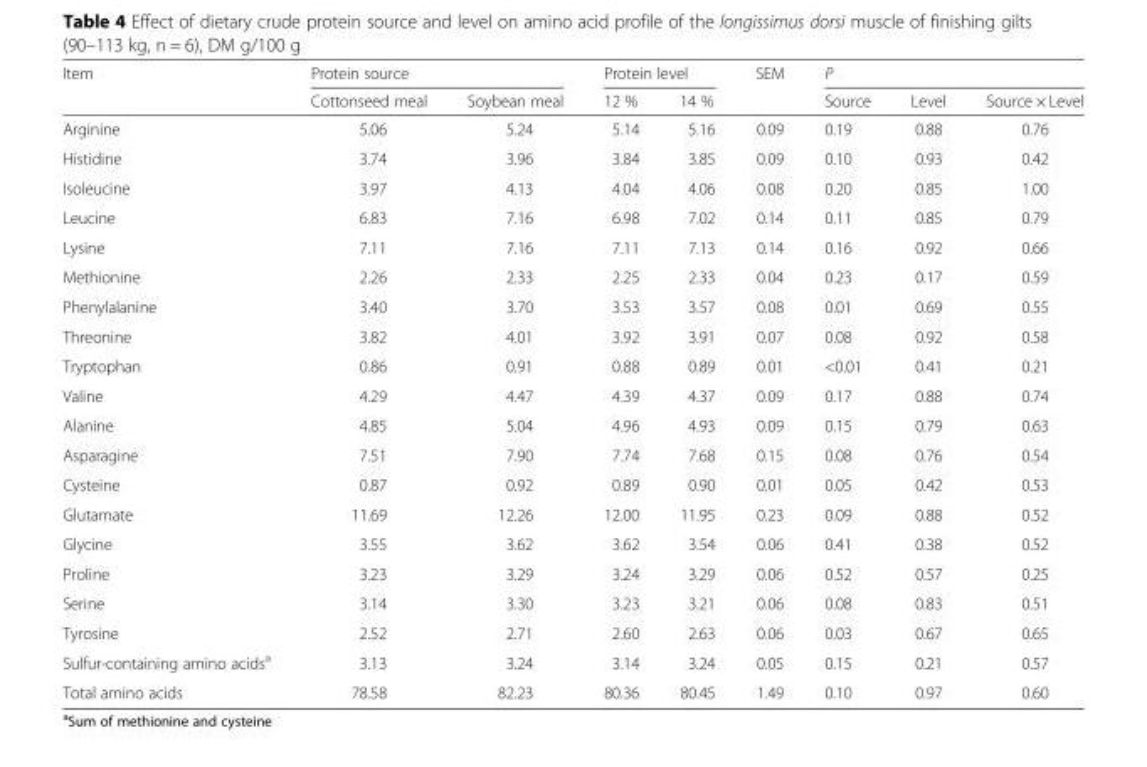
<table><thead><tr><td rowspan="2">Item</td><td colspan="2">Protein source</td><td colspan="2">Protein level</td><td rowspan="2">SEM</td><td colspan="3">P</td></tr><tr><td>Cottonseed meal</td><td>Soybean meal</td><td>12 %</td><td>14 %</td><td>Source</td><td>Level</td><td>Source × Level</td></tr></thead><tbody><tr><td>Arginine</td><td>5.06</td><td>5.24</td><td>5.14</td><td>5.16</td><td>0.09</td><td>0.19</td><td>0.88</td><td>0.76</td></tr><tr><td>Histidine</td><td>3.74</td><td>3.96</td><td>3.84</td><td>3.85</td><td>0.09</td><td>0.10</td><td>0.93</td><td>0.42</td></tr><tr><td>Isoleucine</td><td>3.97</td><td>4.13</td><td>4.04</td><td>4.06</td><td>0.08</td><td>0.20</td><td>0.85</td><td>1.00</td></tr><tr><td>Leucine</td><td>6.83</td><td>7.16</td><td>6.98</td><td>7.02</td><td>0.14</td><td>0.11</td><td>0.85</td><td>0.79</td></tr><tr><td>Lysine</td><td>7.11</td><td>7.16</td><td>7.11</td><td>7.13</td><td>0.14</td><td>0.16</td><td>0.92</td><td>0.66</td></tr><tr><td>Methionine</td><td>2.26</td><td>2.33</td><td>2.25</td><td>2.33</td><td>0.04</td><td>0.23</td><td>0.17</td><td>0.59</td></tr><tr><td>Phenylalanine</td><td>3.40</td><td>3.70</td><td>3.53</td><td>3.57</td><td>0.08</td><td>0.01</td><td>0.69</td><td>0.55</td></tr><tr><td>Threonine</td><td>3.82</td><td>4.01</td><td>3.92</td><td>3.91</td><td>0.07</td><td>0.08</td><td>0.92</td><td>0.58</td></tr><tr><td>Tryptophan</td><td>0.86</td><td>0.91</td><td>0.88</td><td>0.89</td><td>0.01</td><td>&lt;0.01</td><td>0.41</td><td>0.21</td></tr><tr><td>Valine</td><td>4.29</td><td>4.47</td><td>4.39</td><td>4.37</td><td>0.09</td><td>0.17</td><td>0.88</td><td>0.74</td></tr><tr><td>Alanine</td><td>4.85</td><td>5.04</td><td>4.96</td><td>4.93</td><td>0.09</td><td>0.15</td><td>0.79</td><td>0.63</td></tr><tr><td>Asparagine</td><td>7.51</td><td>7.90</td><td>7.74</td><td>7.68</td><td>0.15</td><td>0.08</td><td>0.76</td><td>0.54</td></tr><tr><td>Cysteine</td><td>0.87</td><td>0.92</td><td>0.89</td><td>0.90</td><td>0.01</td><td>0.05</td><td>0.42</td><td>0.53</td></tr><tr><td>Glutamate</td><td>11.69</td><td>12.26</td><td>12.00</td><td>11.95</td><td>0.23</td><td>0.09</td><td>0.88</td><td>0.52</td></tr><tr><td>Glycine</td><td>3.55</td><td>3.62</td><td>3.62</td><td>3.54</td><td>0.06</td><td>0.41</td><td>0.38</td><td>0.52</td></tr><tr><td>Proline</td><td>3.23</td><td>3.29</td><td>3.24</td><td>3.29</td><td>0.06</td><td>0.52</td><td>0.57</td><td>0.25</td></tr><tr><td>Serine</td><td>3.14</td><td>3.30</td><td>3.23</td><td>3.21</td><td>0.06</td><td>0.08</td><td>0.83</td><td>0.51</td></tr><tr><td>Tyrosine</td><td>2.52</td><td>2.71</td><td>2.60</td><td>2.63</td><td>0.06</td><td>0.03</td><td>0.67</td><td>0.65</td></tr><tr><td>Sulfur-containing amino acids<sup>a</sup></td><td>3.13</td><td>3.24</td><td>3.14</td><td>3.24</td><td>0.05</td><td>0.15</td><td>0.21</td><td>0.57</td></tr><tr><td>Total amino acids</td><td>78.58</td><td>82.23</td><td>80.36</td><td>80.45</td><td>1.49</td><td>0.10</td><td>0.97</td><td>0.60</td></tr></tbody></table>